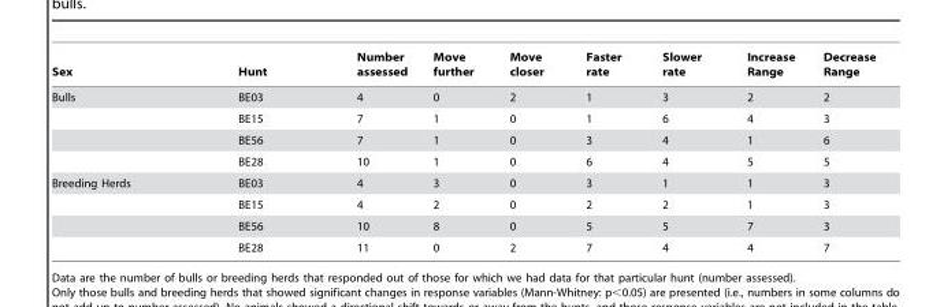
<table><thead><tr><td>Sex</td><td>Hunt</td><td>Number assessed</td><td>Move further</td><td>Move closer</td><td>Faster rate</td><td>Slower rate</td><td>Increase Range</td><td>Decrease Range</td></tr></thead><tbody><tr><td rowspan="4">Bulls</td><td>BE03</td><td>4</td><td>0</td><td>2</td><td>1</td><td>3</td><td>2</td><td>2</td></tr><tr><td>BE15</td><td>7</td><td>1</td><td>0</td><td>1</td><td>6</td><td>4</td><td>3</td></tr><tr><td>BE56</td><td>7</td><td>1</td><td>0</td><td>3</td><td>4</td><td>1</td><td>6</td></tr><tr><td>BE28</td><td>10</td><td>1</td><td>0</td><td>6</td><td>4</td><td>5</td><td>5</td></tr><tr><td rowspan="4">Breeding Herds</td><td>BE03</td><td>4</td><td>3</td><td>0</td><td>3</td><td>1</td><td>1</td><td>3</td></tr><tr><td>BE15</td><td>4</td><td>2</td><td>0</td><td>2</td><td>2</td><td>1</td><td>3</td></tr><tr><td>BE56</td><td>10</td><td>8</td><td>0</td><td>5</td><td>5</td><td>7</td><td>3</td></tr><tr><td>BE28</td><td>11</td><td>0</td><td>2</td><td>7</td><td>4</td><td>4</td><td>7</td></tr></tbody></table>